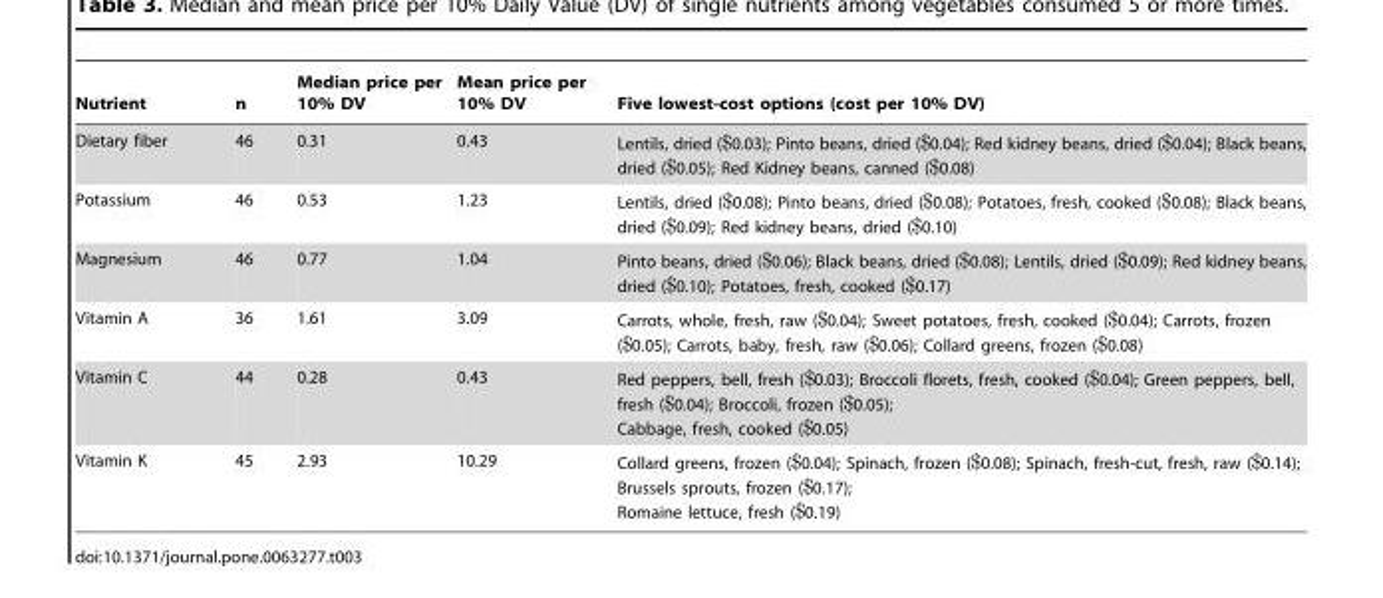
<table><thead><tr><td>Nutrient</td><td>n</td><td>Median price per 10% DV</td><td>Mean price per 10% DV</td><td>Five lowest-cost options (cost per 10% DV)</td></tr></thead><tbody><tr><td>Dietary fiber</td><td>46</td><td>0.31</td><td>0.43</td><td>Lentils, dried ($0.03); Pinto beans, dried ($0.04); Red kidney beans, dried ($0.04); Black beans, dried ($0.05); Red Kidney beans, canned ($0.08)</td></tr><tr><td>Potassium</td><td>46</td><td>0.53</td><td>1.23</td><td>Lentils, dried ($0.08); Pinto beans, dried ($0.08); Potatoes, fresh, cooked ($0.08); Black beans, dried ($0.09); Red kidney beans, dried ($0.10)</td></tr><tr><td>Magnesium</td><td>46</td><td>0.77</td><td>1.04</td><td>Pinto beans, dried ($0.06); Black beans, dried ($0.08); Lentils, dried ($0.09); Red kidney beans, dried ($0.10); Potatoes, fresh, cooked ($0.17)</td></tr><tr><td>Vitamin A</td><td>36</td><td>1.61</td><td>3.09</td><td>Carrots, whole, fresh, raw ($0.04); Sweet potatoes, fresh, cooked ($0.04); Carrots, frozen ($0.05); Carrots, baby, fresh, raw ($0.06); Collard greens, frozen ($0.08)</td></tr><tr><td>Vitamin C</td><td>44</td><td>0.28</td><td>0.43</td><td>Red peppers, bell, fresh ($0.03); Broccoli florets, fresh, cooked ($0.04); Green peppers, bell, fresh ($0.04); Broccoli, frozen ($0.05); Cabbage, fresh, cooked ($0.05)</td></tr><tr><td>Vitamin K</td><td>45</td><td>2.93</td><td>10.29</td><td>Collard greens, frozen ($0.04); Spinach, frozen ($0.08); Spinach, fresh-cut, fresh, raw ($0.14); Brussels sprouts, frozen ($0.17); Romaine lettuce, fresh ($0.19)</td></tr></tbody></table>